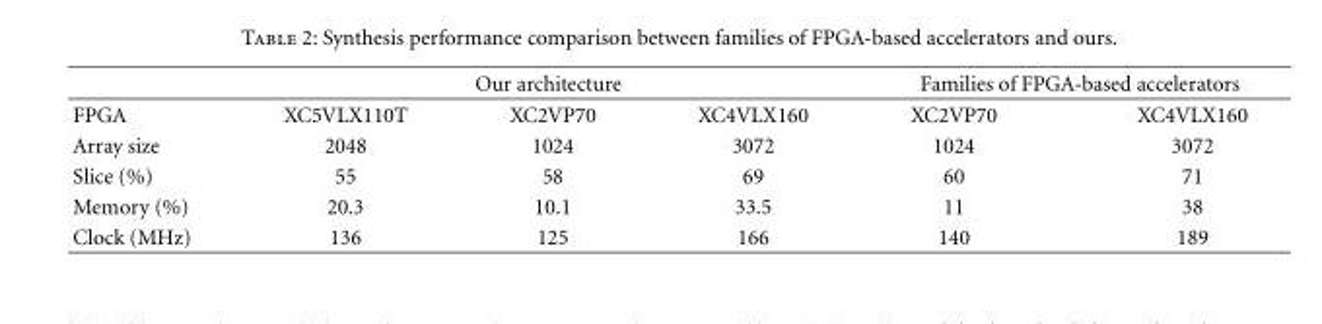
<table><thead><tr><td rowspan="2">FPGA</td><td colspan="3">Our architecture</td><td colspan="2">Families of FPGA-based accelerators</td></tr><tr><td>XC5VLX110T</td><td>XC2VP70</td><td>XC4VLX160</td><td>XC2VP70</td><td>XC4VLX160</td></tr></thead><tbody><tr><td>Array size</td><td>2048</td><td>1024</td><td>3072</td><td>1024</td><td>3072</td></tr><tr><td>Slice (%)</td><td>55</td><td>58</td><td>69</td><td>60</td><td>71</td></tr><tr><td>Memory (%)</td><td>20.3</td><td>10.1</td><td>33.5</td><td>11</td><td>38</td></tr><tr><td>Clock (MHz)</td><td>136</td><td>125</td><td>166</td><td>140</td><td>189</td></tr></tbody></table>